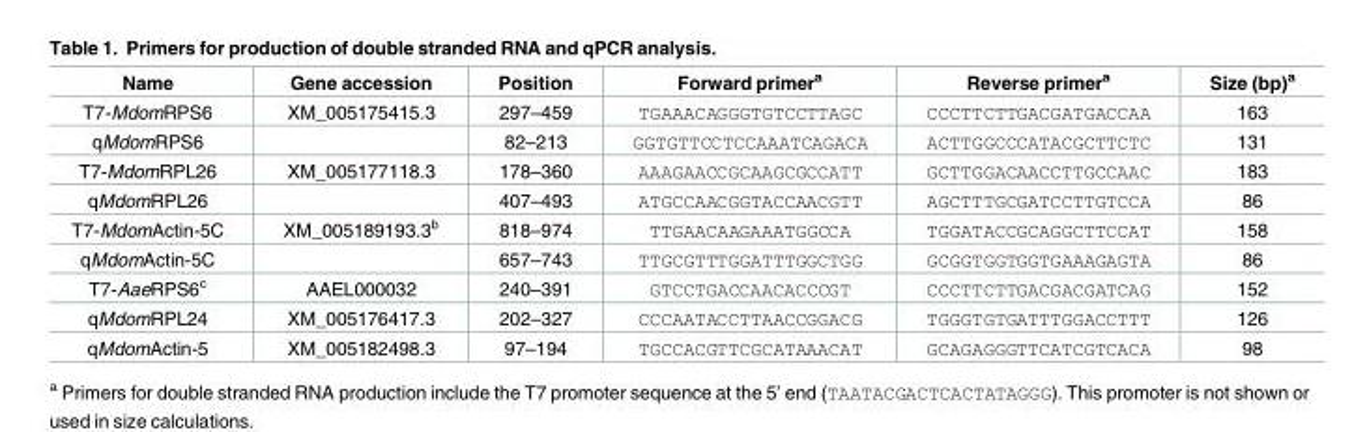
<table><thead><tr><td>Name</td><td>Gene accession</td><td>Position</td><td>Forward primer<sup>a</sup></td><td>Reverse primer<sup>a</sup></td><td>Size (bp)<sup>a</sup></td></tr></thead><tbody><tr><td>T7-MdomRPS6</td><td>XM_005175415.3</td><td>297–459</td><td>TGAAACAGGGTGTCCTTAGC</td><td>CCCTTCTTGACGATGACCAA</td><td>163</td></tr><tr><td>qMdomRPS6</td><td></td><td>82–213</td><td>GGTGTTCCTCCAAATCAGACA</td><td>ACTTGGCCCATACGCTTCTC</td><td>131</td></tr><tr><td>T7-MdomRPL26</td><td>XM_005177118.3</td><td>178–360</td><td>AAAGAACCGCAAGCGCCATT</td><td>GCTTGGACAACCTTGCCAAC</td><td>183</td></tr><tr><td>qMdomRPL26</td><td></td><td>407–493</td><td>ATGCCAACGGTACCAACGTT</td><td>AGCTTTGCGATCCTTGTCCA</td><td>86</td></tr><tr><td>T7-MdomActin-5C</td><td>XM_005189193.3<sup>b</sup></td><td>818–974</td><td>TTGAACAAGAAATGGCCA</td><td>TGGATACCGCAGGCTTCCAT</td><td>158</td></tr><tr><td>qMdomActin-5C</td><td></td><td>657–743</td><td>TTGCGTTTGGATTTGGCTGG</td><td>GCGGTGGTGGTGAAAGAGTA</td><td>86</td></tr><tr><td>T7-AaeRPS6<sup>c</sup></td><td>AAEL000032</td><td>240–391</td><td>GTCCTGACCAACACCCGT</td><td>CCCTTCTTGACGACGATCAG</td><td>152</td></tr><tr><td>qMdomRPL24</td><td>XM_005176417.3</td><td>202–327</td><td>CCCAATACCTTAACCGGACG</td><td>TGGGTGTGATTTGGACCTTT</td><td>126</td></tr><tr><td>qMdomActin-5</td><td>XM_005182498.3</td><td>97–194</td><td>TGCCACGTTCGCATAAACAT</td><td>GCAGAGGGTTCATCGTCACA</td><td>98</td></tr></tbody></table>